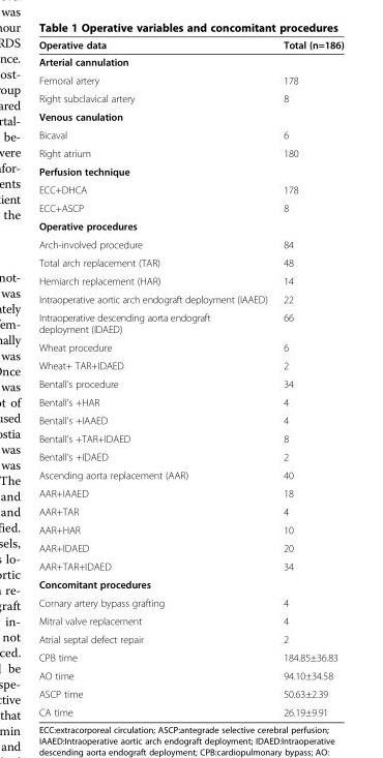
<table><thead><tr><td>Operative data</td><td>Total (n=186)</td></tr></thead><tbody><tr><td colspan="2">Arterial cannulation</td></tr><tr><td>Femoral artery</td><td>178</td></tr><tr><td>Right subclavical artery</td><td>8</td></tr><tr><td colspan="2">Venous canulation</td></tr><tr><td>Bicaval</td><td>6</td></tr><tr><td>Right atrium</td><td>180</td></tr><tr><td colspan="2">Perfusion technique</td></tr><tr><td>ECC+DHCA</td><td>178</td></tr><tr><td>ECC+ASCP</td><td>8</td></tr><tr><td colspan="2">Operative procedures</td></tr><tr><td>Arch-involved procedure</td><td>84</td></tr><tr><td>Total arch replacement (TAR)</td><td>48</td></tr><tr><td>Hemiarch replacement (HAR)</td><td>14</td></tr><tr><td>Intraoperative aortic arch endograft deployment (IAAED)</td><td>22</td></tr><tr><td>Intraoperative descending aorta endograft deployment (IDAED)</td><td>66</td></tr><tr><td>Wheat procedure</td><td>6</td></tr><tr><td>Wheat+ TAR+IDAED</td><td>2</td></tr><tr><td>Bentall’s procedure</td><td>34</td></tr><tr><td>Bentall’s +HAR</td><td>4</td></tr><tr><td>Bentall’s +IAAED</td><td>4</td></tr><tr><td>Bentall’s +TAR+IDAED</td><td>8</td></tr><tr><td>Bentall’s +IDAED</td><td>2</td></tr><tr><td>Ascending aorta replacement (AAR)</td><td>40</td></tr><tr><td>AAR+IAAED</td><td>18</td></tr><tr><td>AAR+TAR</td><td>4</td></tr><tr><td>AAR+HAR</td><td>10</td></tr><tr><td>AAR+IDAED</td><td>20</td></tr><tr><td>AAR+TAR+IDAED</td><td>34</td></tr><tr><td colspan="2">Concomitant procedures</td></tr><tr><td>Cornary artery bypass grafting</td><td>4</td></tr><tr><td>Mitral valve replacement</td><td>4</td></tr><tr><td>Atrial septal defect repair</td><td>2</td></tr><tr><td>CPB time</td><td>184.85±36.83</td></tr><tr><td>AO time</td><td>94.10±34.58</td></tr><tr><td>ASCP time</td><td>50.63±2.39</td></tr><tr><td>CA time</td><td>26.19±9.91</td></tr></tbody></table>